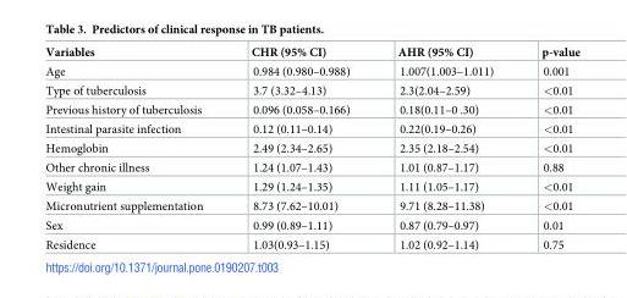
<table><thead><tr><td>Variables</td><td>CHR (95% CI)</td><td>AHR (95% CI)</td><td>p-value</td></tr></thead><tbody><tr><td>Age</td><td>0.984 (0.980–0.988)</td><td>1.007(1.003–1.011)</td><td>0.001</td></tr><tr><td>Type of tuberculosis</td><td>3.7 (3.32–4.13)</td><td>2.3(2.04–2.59)</td><td>&lt;0.01</td></tr><tr><td>Previous history of tuberculosis</td><td>0.096 (0.058–0.166)</td><td>0.18(0.11–0 .30)</td><td>&lt;0.01</td></tr><tr><td>Intestinal parasite infection</td><td>0.12 (0.11–0.14)</td><td>0.22(0.19–0.26)</td><td>&lt;0.01</td></tr><tr><td>Hemoglobin</td><td>2.49 (2.34–2.65)</td><td>2.35 (2.18–2.54)</td><td>&lt;0.01</td></tr><tr><td>Other chronic illness</td><td>1.24 (1.07–1.43)</td><td>1.01 (0.87–1.17)</td><td>0.88</td></tr><tr><td>Weight gain</td><td>1.29 (1.24–1.35)</td><td>1.11 (1.05–1.17)</td><td>&lt;0.01</td></tr><tr><td>Micronutrient supplementation</td><td>8.73 (7.62–10.01)</td><td>9.71 (8.28–11.38)</td><td>&lt;0.01</td></tr><tr><td>Sex</td><td>0.99 (0.89–1.11)</td><td>0.87 (0.79–0.97)</td><td>0.01</td></tr><tr><td>Residence</td><td>1.03(0.93–1.15)</td><td>1.02 (0.92–1.14)</td><td>0.75</td></tr></tbody></table>